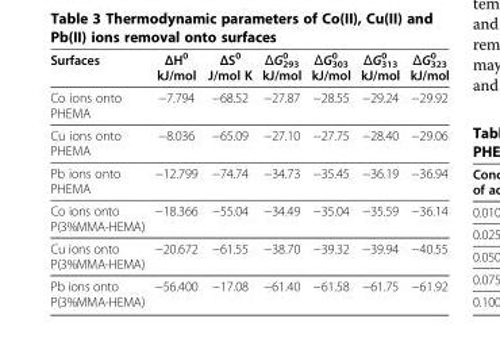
<table><thead><tr><td>Surfaces</td><td>ΔH<sup>0</sup> kJ/mol</td><td>ΔS<sup>0</sup> J/mol K</td><td>ΔG<sub>293</sub> <sup>0</sup> kJ/mol</td><td>ΔG<sub>303</sub> <sup>0</sup> kJ/mol</td><td>ΔG<sub>313</sub> <sup>0</sup> kJ/mol</td><td>ΔG<sub>323</sub> <sup>0</sup> kJ/mol</td></tr></thead><tbody><tr><td>Co ions onto PHEMA</td><td>−7.794</td><td>−68.52</td><td>−27.87</td><td>−28.55</td><td>−29.24</td><td>−29.92</td></tr><tr><td>Cu ions onto PHEMA</td><td>−8.036</td><td>−65.09</td><td>−27.10</td><td>−27.75</td><td>−28.40</td><td>−29.06</td></tr><tr><td>Pb ions onto PHEMA</td><td>−12.799</td><td>−74.74</td><td>−34.73</td><td>−35.45</td><td>−36.19</td><td>−36.94</td></tr><tr><td>Co ions onto P(3%MMA-HEMA)</td><td>−18.366</td><td>−55.04</td><td>−34.49</td><td>−35.04</td><td>−35.59</td><td>−36.14</td></tr><tr><td>Cu ions onto P(3%MMA-HEMA)</td><td>−20.672</td><td>−61.55</td><td>−38.70</td><td>−39.32</td><td>−39.94</td><td>−40.55</td></tr><tr><td>Pb ions onto P(3%MMA-HEMA)</td><td>−56.400</td><td>−17.08</td><td>−61.40</td><td>−61.58</td><td>−61.75</td><td>−61.92</td></tr></tbody></table>